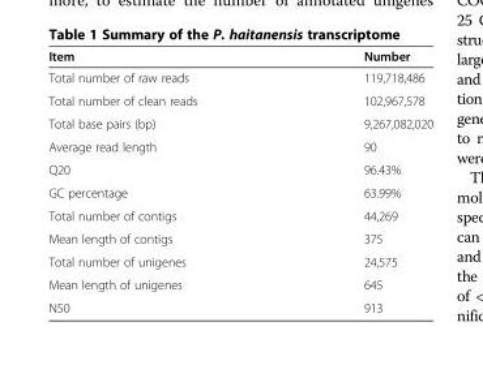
<table><thead><tr><td>Item</td><td>Number</td></tr></thead><tbody><tr><td>Total number of raw reads</td><td>119,718,486</td></tr><tr><td>Total number of clean reads</td><td>102,967,578</td></tr><tr><td>Total base pairs (bp)</td><td>9,267,082,020</td></tr><tr><td>Average read length</td><td>90</td></tr><tr><td>Q20</td><td>96.43%</td></tr><tr><td>GC percentage</td><td>63.99%</td></tr><tr><td>Total number of contigs</td><td>44,269</td></tr><tr><td>Mean length of contigs</td><td>375</td></tr><tr><td>Total number of unigenes</td><td>24,575</td></tr><tr><td>Mean length of unigenes</td><td>645</td></tr><tr><td>N50</td><td>913</td></tr></tbody></table>